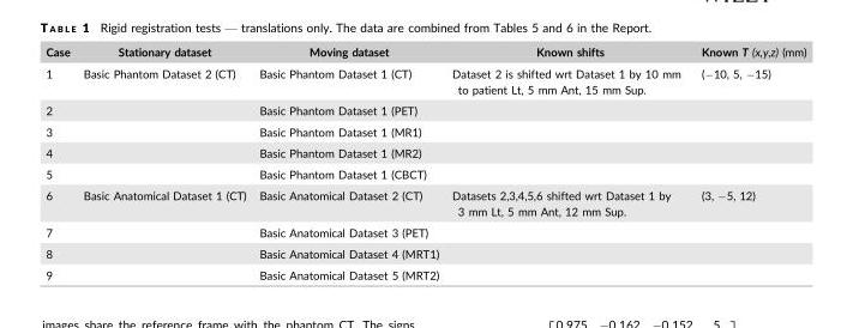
<table><thead><tr><td>Case</td><td>Stationary dataset</td><td>Moving dataset</td><td>Known shifts</td><td>Known T (x,y,z) (mm)</td></tr></thead><tbody><tr><td>1</td><td>Basic Phantom Dataset 2 (CT)</td><td>Basic Phantom Dataset 1 (CT)</td><td>Dataset 2 is shifted wrt Dataset 1 by 10 mm to patient Lt, 5 mm Ant, 15 mm Sup.</td><td>(−10, 5, −15)</td></tr><tr><td>2</td><td></td><td>Basic Phantom Dataset 1 (PET)</td><td></td><td></td></tr><tr><td>3</td><td></td><td>Basic Phantom Dataset 1 (MR1)</td><td></td><td></td></tr><tr><td>4</td><td></td><td>Basic Phantom Dataset 1 (MR2)</td><td></td><td></td></tr><tr><td>5</td><td></td><td>Basic Phantom Dataset 1 (CBCT)</td><td></td><td></td></tr><tr><td>6</td><td>Basic Anatomical Dataset 1 (CT)</td><td>Basic Anatomical Dataset 2 (CT)</td><td>Datasets 2,3,4,5,6 shifted wrt Dataset 1 by 3 mm Lt, 5 mm Ant, 12 mm Sup.</td><td>(3, −5, 12)</td></tr><tr><td>7</td><td></td><td>Basic Anatomical Dataset 3 (PET)</td><td></td><td></td></tr><tr><td>8</td><td></td><td>Basic Anatomical Dataset 4 (MRT1)</td><td></td><td></td></tr><tr><td>9</td><td></td><td>Basic Anatomical Dataset 5 (MRT2)</td><td></td><td></td></tr></tbody></table>